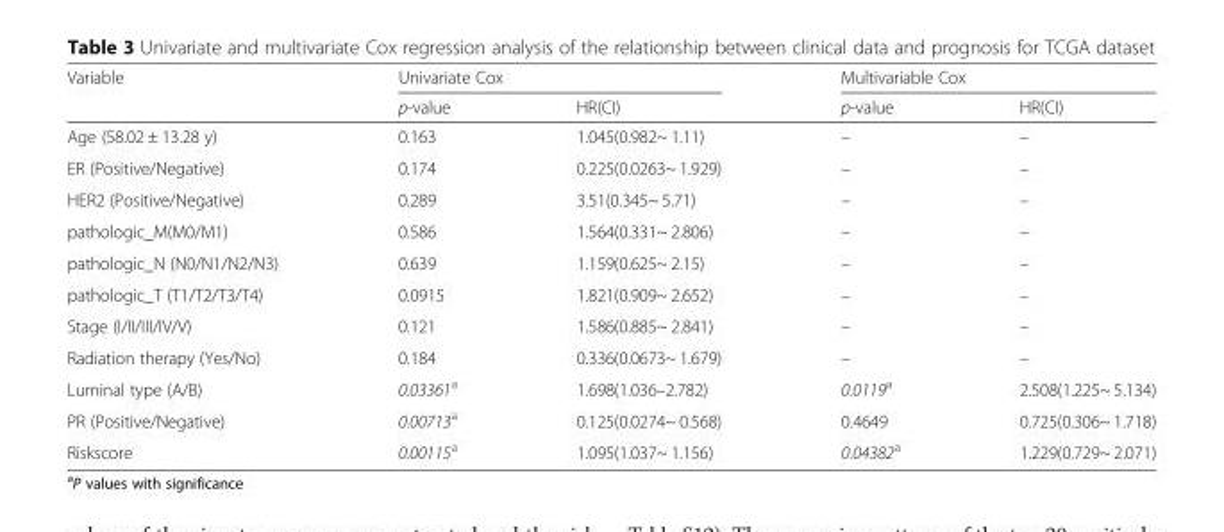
<table><thead><tr><td rowspan="2">Variable</td><td colspan="2">Univariate Cox</td><td colspan="2">Multivariable Cox</td></tr><tr><td>p-value</td><td>HR(CI)</td><td>p-value</td><td>HR(CI)</td></tr></thead><tbody><tr><td>Age (58.02 ± 13.28 y)</td><td>0.163</td><td>1.045(0.982~ 1.11)</td><td>–</td><td>–</td></tr><tr><td>ER (Positive/Negative)</td><td>0.174</td><td>0.225(0.0263~ 1.929)</td><td>–</td><td>–</td></tr><tr><td>HER2 (Positive/Negative)</td><td>0.289</td><td>3.51(0.345~ 5.71)</td><td>–</td><td>–</td></tr><tr><td>pathologic_M(M0/M1)</td><td>0.586</td><td>1.564(0.331~ 2.806)</td><td>–</td><td>–</td></tr><tr><td>pathologic_N (N0/N1/N2/N3)</td><td>0.639</td><td>1.159(0.625~ 2.15)</td><td>–</td><td>–</td></tr><tr><td>pathologic_T (T1/T2/T3/T4)</td><td>0.0915</td><td>1.821(0.909~ 2.652)</td><td>–</td><td>–</td></tr><tr><td>Stage (I/II/III/IV/V)</td><td>0.121</td><td>1.586(0.885~ 2.841)</td><td>–</td><td>–</td></tr><tr><td>Radiation therapy (Yes/No)</td><td>0.184</td><td>0.336(0.0673~ 1.679)</td><td>–</td><td>–</td></tr><tr><td>Luminal type (A/B)</td><td>0.03361<sup>a</sup></td><td>1.698(1.036–2.782)</td><td>0.0119<sup>a</sup></td><td>2.508(1.225~ 5.134)</td></tr><tr><td>PR (Positive/Negative)</td><td>0.00713<sup>a</sup></td><td>0.125(0.0274~ 0.568)</td><td>0.4649</td><td>0.725(0.306~ 1.718)</td></tr><tr><td>Riskscore</td><td>0.00115<sup>a</sup></td><td>1.095(1.037~ 1.156)</td><td>0.04382<sup>a</sup></td><td>1.229(0.729~ 2.071)</td></tr></tbody></table>